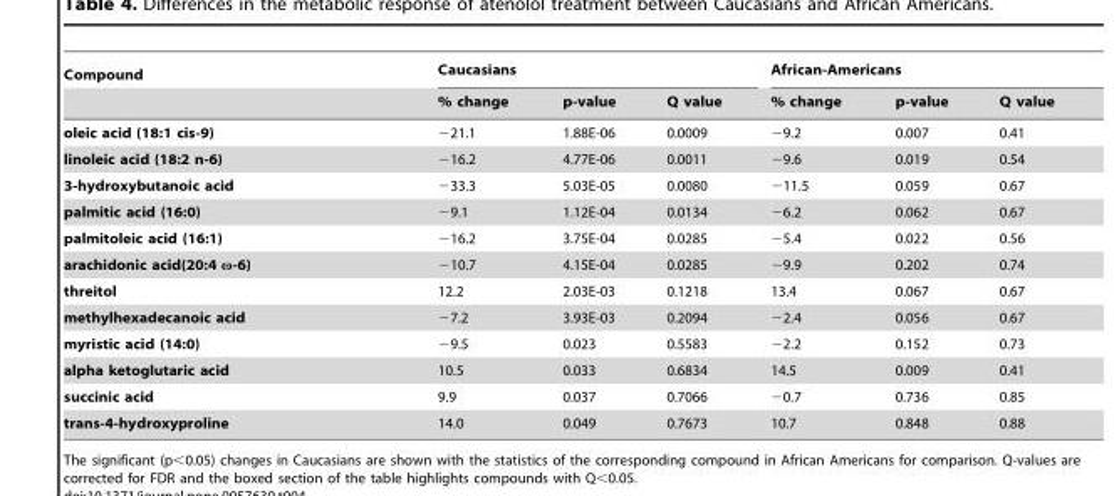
<table><thead><tr><td rowspan="2">Compound</td><td colspan="3">Caucasians</td><td colspan="3">African-Americans</td></tr><tr><td>% change</td><td>p-value</td><td>Q value</td><td>% change</td><td>p-value</td><td>Q value</td></tr></thead><tbody><tr><td>oleic acid (18:1 cis-9)</td><td>−21.1</td><td>1.88E-06</td><td>0.0009</td><td>−9.2</td><td>0.007</td><td>0.41</td></tr><tr><td>linoleic acid (18:2 n-6)</td><td>−16.2</td><td>4.77E-06</td><td>0.0011</td><td>−9.6</td><td>0.019</td><td>0.54</td></tr><tr><td>3-hydroxybutanoic acid</td><td>−33.3</td><td>5.03E-05</td><td>0.0080</td><td>−11.5</td><td>0.059</td><td>0.67</td></tr><tr><td>palmitic acid (16:0)</td><td>−9.1</td><td>1.12E-04</td><td>0.0134</td><td>−6.2</td><td>0.062</td><td>0.67</td></tr><tr><td>palmitoleic acid (16:1)</td><td>−16.2</td><td>3.75E-04</td><td>0.0285</td><td>−5.4</td><td>0.022</td><td>0.56</td></tr><tr><td>arachidonic acid(20:4 ω-6)</td><td>−10.7</td><td>4.15E-04</td><td>0.0285</td><td>−9.9</td><td>0.202</td><td>0.74</td></tr><tr><td>threitol</td><td>12.2</td><td>2.03E-03</td><td>0.1218</td><td>13.4</td><td>0.067</td><td>0.67</td></tr><tr><td>methylhexadecanoic acid</td><td>−7.2</td><td>3.93E-03</td><td>0.2094</td><td>−2.4</td><td>0.056</td><td>0.67</td></tr><tr><td>myristic acid (14:0)</td><td>−9.5</td><td>0.023</td><td>0.5583</td><td>−2.2</td><td>0.152</td><td>0.73</td></tr><tr><td>alpha ketoglutaric acid</td><td>10.5</td><td>0.033</td><td>0.6834</td><td>14.5</td><td>0.009</td><td>0.41</td></tr><tr><td>succinic acid</td><td>9.9</td><td>0.037</td><td>0.7066</td><td>−0.7</td><td>0.736</td><td>0.85</td></tr><tr><td>trans-4-hydroxyproline</td><td>14.0</td><td>0.049</td><td>0.7673</td><td>10.7</td><td>0.848</td><td>0.88</td></tr></tbody></table>